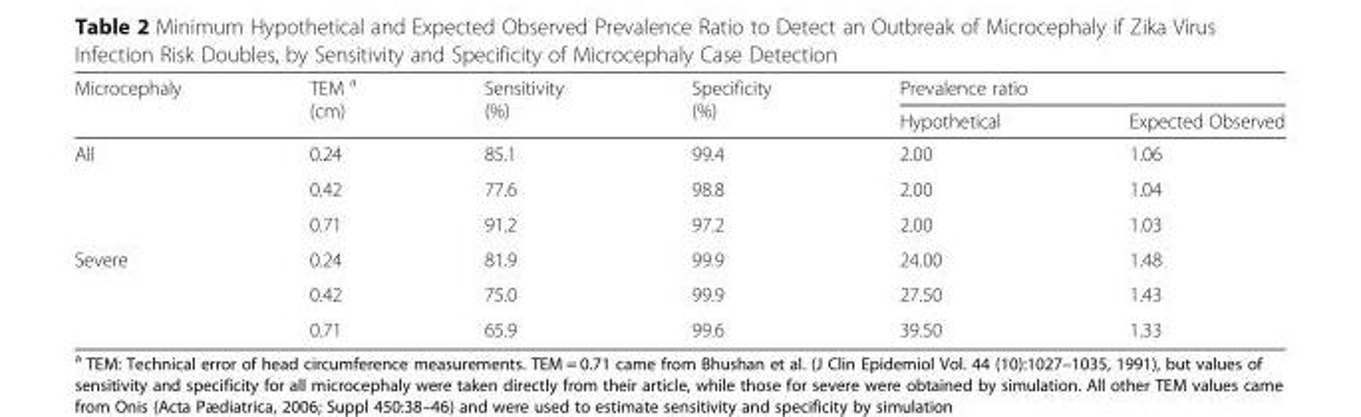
<table><thead><tr><td rowspan="2">Microcephaly</td><td rowspan="2">TEM <sup>a</sup> (cm)</td><td rowspan="2">Sensitivity (%)</td><td rowspan="2">Specificity (%)</td><td colspan="2">Prevalence ratio</td></tr><tr><td>Hypothetical</td><td>Expected Observed</td></tr></thead><tbody><tr><td rowspan="3">All</td><td>0.24</td><td>85.1</td><td>99.4</td><td>2.00</td><td>1.06</td></tr><tr><td>0.42</td><td>77.6</td><td>98.8</td><td>2.00</td><td>1.04</td></tr><tr><td>0.71</td><td>91.2</td><td>97.2</td><td>2.00</td><td>1.03</td></tr><tr><td rowspan="3">Severe</td><td>0.24</td><td>81.9</td><td>99.9</td><td>24.00</td><td>1.48</td></tr><tr><td>0.42</td><td>75.0</td><td>99.9</td><td>27.50</td><td>1.43</td></tr><tr><td>0.71</td><td>65.9</td><td>99.6</td><td>39.50</td><td>1.33</td></tr></tbody></table>